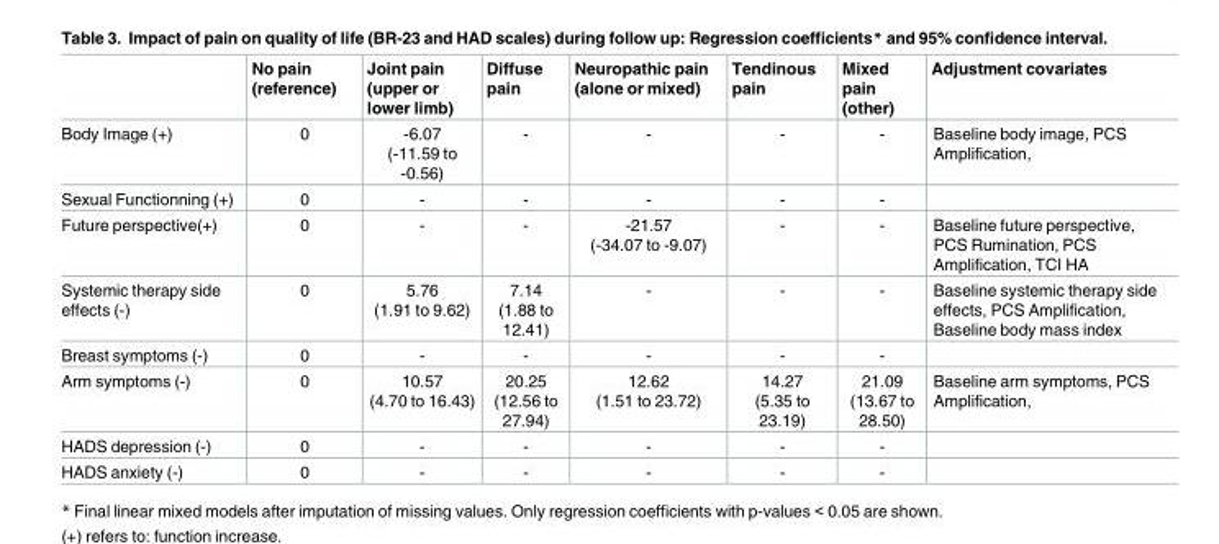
<table><thead><tr><td></td><td>No pain (reference)</td><td>Joint pain (upper or lower limb)</td><td>Diffuse pain</td><td>Neuropathic pain (alone or mixed)</td><td>Tendinous pain</td><td>Mixed pain (other)</td><td>Adjustment covariates</td></tr></thead><tbody><tr><td>Body Image (+)</td><td>0</td><td>-6.07 (-11.59 to -0.56)</td><td>-</td><td>-</td><td>-</td><td>-</td><td>Baseline body image, PCS Amplification,</td></tr><tr><td>Sexual Functionning (+)</td><td>0</td><td>-</td><td>-</td><td>-</td><td>-</td><td>-</td><td></td></tr><tr><td>Future perspective(+)</td><td>0</td><td>-</td><td>-</td><td>-21.57 (-34.07 to -9.07)</td><td>-</td><td>-</td><td>Baseline future perspective, PCS Rumination, PCS Amplification, TCI HA</td></tr><tr><td>Systemic therapy side effects (-)</td><td>0</td><td>5.76 (1.91 to 9.62)</td><td>7.14 (1.88 to 12.41)</td><td>-</td><td>-</td><td>-</td><td>Baseline systemic therapy side effects, PCS Amplification, Baseline body mass index</td></tr><tr><td>Breast symptoms (-)</td><td>0</td><td>-</td><td>-</td><td>-</td><td>-</td><td>-</td><td></td></tr><tr><td>Arm symptoms (-)</td><td>0</td><td>10.57 (4.70 to 16.43)</td><td>20.25 (12.56 to 27.94)</td><td>12.62 (1.51 to 23.72)</td><td>14.27 (5.35 to 23.19)</td><td>21.09 (13.67 to 28.50)</td><td>Baseline arm symptoms, PCS Amplification,</td></tr><tr><td>HADS depression (-)</td><td>0</td><td>-</td><td>-</td><td>-</td><td>-</td><td>-</td><td></td></tr><tr><td>HADS anxiety (-)</td><td>0</td><td>-</td><td>-</td><td>-</td><td>-</td><td>-</td><td></td></tr></tbody></table>